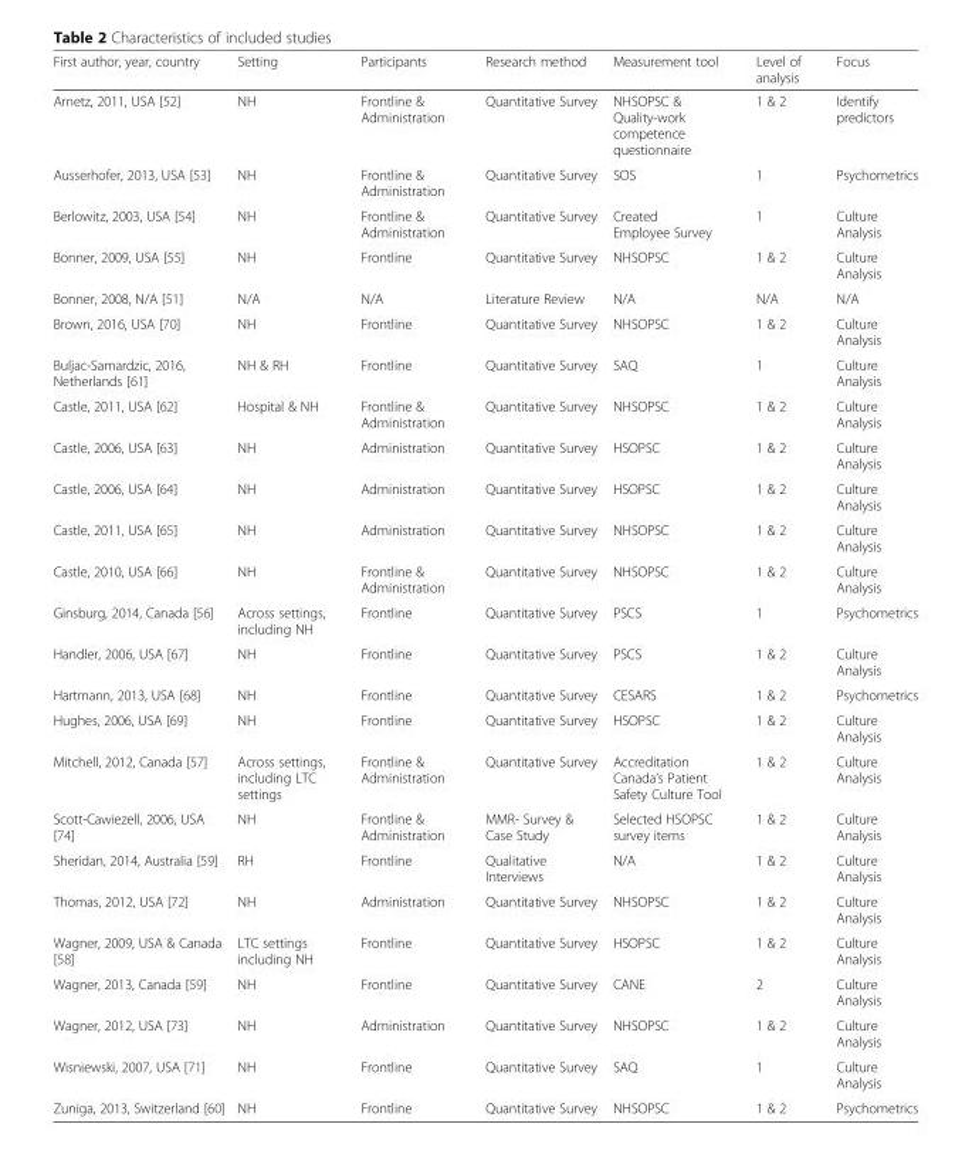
<table><thead><tr><td>First author, year, country</td><td>Setting</td><td>Participants</td><td>Research method</td><td>Measurement tool</td><td>Level of analysis</td><td>Focus</td></tr></thead><tbody><tr><td>Arnetz, 2011, USA [52]</td><td>NH</td><td>Frontline &amp; Administration</td><td>Quantitative Survey</td><td>NHSOPSC &amp; Quality-work competence questionnaire</td><td>1 &amp; 2</td><td>Identify predictors</td></tr><tr><td>Ausserhofer, 2013, USA [53]</td><td>NH</td><td>Frontline &amp; Administration</td><td>Quantitative Survey</td><td>SOS</td><td>1</td><td>Psychometrics</td></tr><tr><td>Berlowitz, 2003, USA [54]</td><td>NH</td><td>Frontline &amp; Administration</td><td>Quantitative Survey</td><td>Created Employee Survey</td><td>1</td><td>Culture Analysis</td></tr><tr><td>Bonner, 2009, USA [55]</td><td>NH</td><td>Frontline</td><td>Quantitative Survey</td><td>NHSOPSC</td><td>1 &amp; 2</td><td>Culture Analysis</td></tr><tr><td>Bonner, 2008, N/A [51]</td><td>N/A</td><td>N/A</td><td>Literature Review</td><td>N/A</td><td>N/A</td><td>N/A</td></tr><tr><td>Brown, 2016, USA [70]</td><td>NH</td><td>Frontline</td><td>Quantitative Survey</td><td>NHSOPSC</td><td>1 &amp; 2</td><td>Culture Analysis</td></tr><tr><td>Buljac-Samardzic, 2016, Netherlands [61]</td><td>NH &amp; RH</td><td>Frontline</td><td>Quantitative Survey</td><td>SAQ</td><td>1</td><td>Culture Analysis</td></tr><tr><td>Castle, 2011, USA [62]</td><td>Hospital &amp; NH</td><td>Frontline &amp; Administration</td><td>Quantitative Survey</td><td>NHSOPSC</td><td>1 &amp; 2</td><td>Culture Analysis</td></tr><tr><td>Castle, 2006, USA [63]</td><td>NH</td><td>Administration</td><td>Quantitative Survey</td><td>HSOPSC</td><td>1 &amp; 2</td><td>Culture Analysis</td></tr><tr><td>Castle, 2006, USA [64]</td><td>NH</td><td>Administration</td><td>Quantitative Survey</td><td>HSOPSC</td><td>1 &amp; 2</td><td>Culture Analysis</td></tr><tr><td>Castle, 2011, USA [65]</td><td>NH</td><td>Administration</td><td>Quantitative Survey</td><td>NHSOPSC</td><td>1 &amp; 2</td><td>Culture Analysis</td></tr><tr><td>Castle, 2010, USA [66]</td><td>NH</td><td>Frontline &amp; Administration</td><td>Quantitative Survey</td><td>NHSOPSC</td><td>1 &amp; 2</td><td>Culture Analysis</td></tr><tr><td>Ginsburg, 2014, Canada [56]</td><td>Across settings, including NH</td><td>Frontline</td><td>Quantitative Survey</td><td>PSCS</td><td>1</td><td>Psychometrics</td></tr><tr><td>Handler, 2006, USA [67]</td><td>NH</td><td>Frontline</td><td>Quantitative Survey</td><td>PSCS</td><td>1 &amp; 2</td><td>Culture Analysis</td></tr><tr><td>Hartmann, 2013, USA [68]</td><td>NH</td><td>Frontline</td><td>Quantitative Survey</td><td>CESARS</td><td>1 &amp; 2</td><td>Psychometrics</td></tr><tr><td>Hughes, 2006, USA [69]</td><td>NH</td><td>Frontline</td><td>Quantitative Survey</td><td>HSOPSC</td><td>1 &amp; 2</td><td>Culture Analysis</td></tr><tr><td>Mitchell, 2012, Canada [57]</td><td>Across settings, including LTC settings</td><td>Frontline &amp; Administration</td><td>Quantitative Survey</td><td>Accreditation Canada’s Patient Safety Culture Tool</td><td>1 &amp; 2</td><td>Culture Analysis</td></tr><tr><td>Scott-Cawiezell, 2006, USA [74]</td><td>NH</td><td>Frontline &amp; Administration</td><td>MMR- Survey &amp; Case Study</td><td>Selected HSOPSC survey items</td><td>1 &amp; 2</td><td>Culture Analysis</td></tr><tr><td>Sheridan, 2014, Australia [59]</td><td>RH</td><td>Frontline</td><td>Qualitative Interviews</td><td>N/A</td><td>1 &amp; 2</td><td>Culture Analysis</td></tr><tr><td>Thomas, 2012, USA [72]</td><td>NH</td><td>Administration</td><td>Quantitative Survey</td><td>NHSOPSC</td><td>1 &amp; 2</td><td>Culture Analysis</td></tr><tr><td>Wagner, 2009, USA &amp; Canada [58]</td><td>LTC settings including NH</td><td>Frontline</td><td>Quantitative Survey</td><td>HSOPSC</td><td>1 &amp; 2</td><td>Culture Analysis</td></tr><tr><td>Wagner, 2013, Canada [59]</td><td>NH</td><td>Frontline</td><td>Quantitative Survey</td><td>CANE</td><td>2</td><td>Culture Analysis</td></tr><tr><td>Wagner, 2012, USA [73]</td><td>NH</td><td>Administration</td><td>Quantitative Survey</td><td>NHSOPSC</td><td>1 &amp; 2</td><td>Culture Analysis</td></tr><tr><td>Wisniewski, 2007, USA [71]</td><td>NH</td><td>Frontline</td><td>Quantitative Survey</td><td>SAQ</td><td>1</td><td>Culture Analysis</td></tr><tr><td>Zuniga, 2013, Switzerland [60]</td><td>NH</td><td>Frontline</td><td>Quantitative Survey</td><td>NHSOPSC</td><td>1 &amp; 2</td><td>Psychometrics</td></tr></tbody></table>